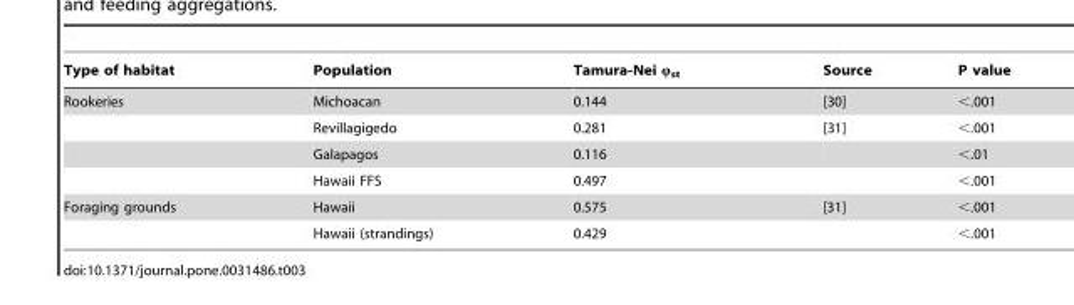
<table><thead><tr><td>Type of habitat</td><td>Population</td><td>Tamura-Nei ϕ<sub>st</sub></td><td>Source</td><td>P value</td></tr></thead><tbody><tr><td rowspan="4">Rookeries</td><td>Michoacan</td><td>0.144</td><td>[30]</td><td>&lt;.001</td></tr><tr><td>Revillagigedo</td><td>0.281</td><td>[31]</td><td>&lt;.001</td></tr><tr><td>Galapagos</td><td>0.116</td><td></td><td>&lt;.01</td></tr><tr><td>Hawaii FFS</td><td>0.497</td><td></td><td>&lt;.001</td></tr><tr><td rowspan="2">Foraging grounds</td><td>Hawaii</td><td>0.575</td><td>[31]</td><td>&lt;.001</td></tr><tr><td>Hawaii (strandings)</td><td>0.429</td><td></td><td>&lt;.001</td></tr></tbody></table>